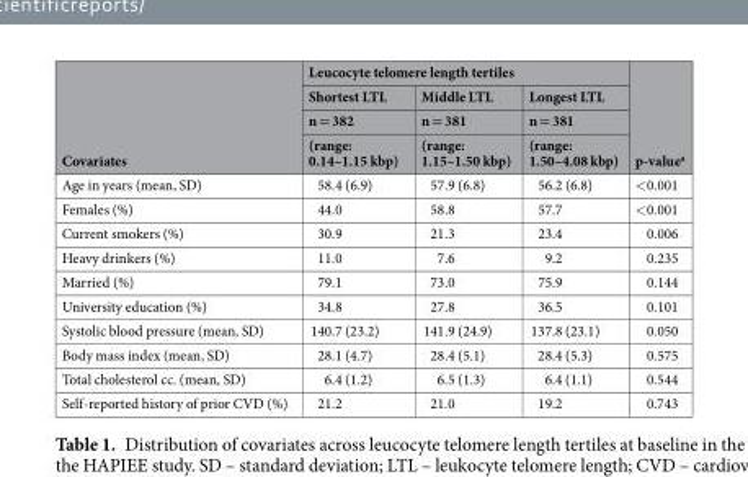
<table><thead><tr><td rowspan="4">Covariates</td><td colspan="3">Leucocyte telomere length tertiles</td><td rowspan="4">p-value<sup>a</sup></td></tr><tr><td rowspan="3">Shortest LTL n = 382 (range: 0.14–1.15 kbp)</td><td rowspan="3">Middle LTL n = 381 (range: 1.15–1.50 kbp)</td><td rowspan="3">Longest LTL n = 381 (range: 1.50–4.08 kbp)</td></tr><tr></tr><tr></tr></thead><tbody><tr><td>Age in years (mean, SD)</td><td>58.4 (6.9)</td><td>57.9 (6.8)</td><td>56.2 (6.8)</td><td>&lt;0.001</td></tr><tr><td>Females (%)</td><td>44.0</td><td>58.8</td><td>57.7</td><td>&lt;0.001</td></tr><tr><td>Current smokers (%)</td><td>30.9</td><td>21.3</td><td>23.4</td><td>0.006</td></tr><tr><td>Heavy drinkers (%)</td><td>11.0</td><td>7.6</td><td>9.2</td><td>0.235</td></tr><tr><td>Married (%)</td><td>79.1</td><td>73.0</td><td>75.9</td><td>0.144</td></tr><tr><td>University education (%)</td><td>34.8</td><td>27.8</td><td>36.5</td><td>0.101</td></tr><tr><td>Systolic blood pressure (mean, SD)</td><td>140.7 (23.2)</td><td>141.9 (24.9)</td><td>137.8 (23.1)</td><td>0.050</td></tr><tr><td>Body mass index (mean, SD)</td><td>28.1 (4.7)</td><td>28.4 (5.1)</td><td>28.4 (5.3)</td><td>0.575</td></tr><tr><td>Total cholesterol cc. (mean, SD)</td><td>6.4 (1.2)</td><td>6.5 (1.3)</td><td>6.4 (1.1)</td><td>0.544</td></tr><tr><td>Self-reported history of prior CVD (%)</td><td>21.2</td><td>21.0</td><td>19.2</td><td>0.743</td></tr></tbody></table>